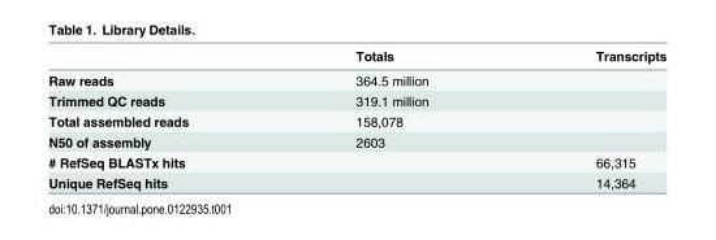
<table><thead><tr><td></td><td>Totals</td><td>Transcripts</td></tr></thead><tbody><tr><td>Raw reads</td><td>364.5 million</td><td></td></tr><tr><td>Trimmed QC reads</td><td>319.1 million</td><td></td></tr><tr><td>Total assembled reads</td><td>158,078</td><td></td></tr><tr><td>N50 of assembly</td><td>2603</td><td></td></tr><tr><td># RefSeq BLASTx hits</td><td></td><td>66,315</td></tr><tr><td>Unique RefSeq hits</td><td></td><td>14,364</td></tr></tbody></table>